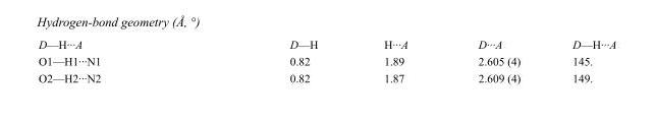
<table><tbody><tr><td>D—H···A</td><td>D—H</td><td>H···A</td><td>D···A</td><td>D—H···A</td></tr><tr><td>O1—H1···N1</td><td>0.82</td><td>1.89</td><td>2.605 (4)</td><td>145.</td></tr><tr><td>O2—H2···N2</td><td>0.82</td><td>1.87</td><td>2.609 (4)</td><td>149.</td></tr></tbody></table>